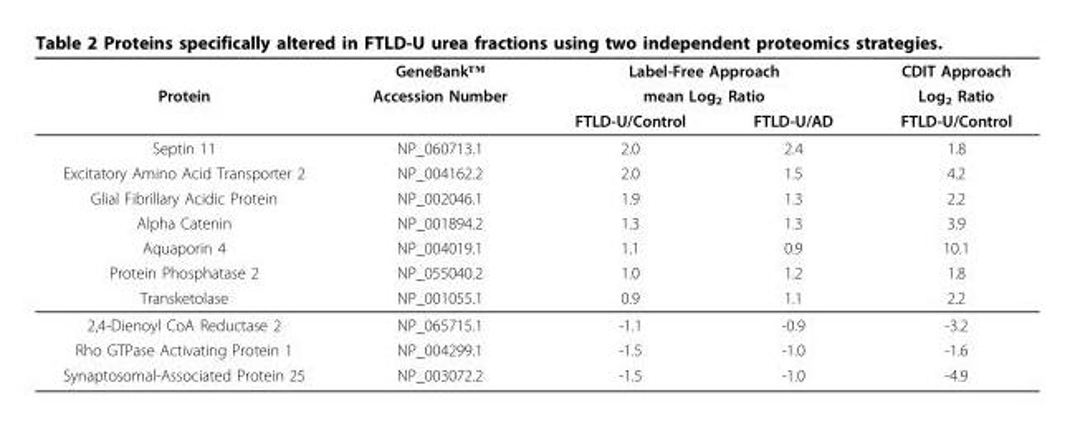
<table><thead><tr><td rowspan="3">Protein</td><td rowspan="3">GeneBank™ Accession Number</td><td rowspan="2" colspan="2">Label-Free Approach mean Log<sub>2</sub> Ratio</td><td rowspan="3">CDIT Approach Log<sub>2</sub> Ratio FTLD-U/Control</td></tr><tr></tr><tr><td>FTLD-U/Control</td><td>FTLD-U/AD</td></tr></thead><tbody><tr><td>Septin 11</td><td>NP_060713.1</td><td>2.0</td><td>2.4</td><td>1.8</td></tr><tr><td>Excitatory Amino Acid Transporter 2</td><td>NP_004162.2</td><td>2.0</td><td>1.5</td><td>4.2</td></tr><tr><td>Glial Fibrillary Acidic Protein</td><td>NP_002046.1</td><td>1.9</td><td>1.3</td><td>2.2</td></tr><tr><td>Alpha Catenin</td><td>NP_001894.2</td><td>1.3</td><td>1.3</td><td>3.9</td></tr><tr><td>Aquaporin 4</td><td>NP_004019.1</td><td>1.1</td><td>0.9</td><td>10.1</td></tr><tr><td>Protein Phosphatase 2</td><td>NP_055040.2</td><td>1.0</td><td>1.2</td><td>1.8</td></tr><tr><td>Transketolase</td><td>NP_001055.1</td><td>0.9</td><td>1.1</td><td>2.2</td></tr><tr><td>2,4-Dienoyl CoA Reductase 2</td><td>NP_065715.1</td><td>-1.1</td><td>-0.9</td><td>-3.2</td></tr><tr><td>Rho GTPase Activating Protein 1</td><td>NP_004299.1</td><td>-1.5</td><td>-1.0</td><td>-1.6</td></tr><tr><td>Synaptosomal-Associated Protein 25</td><td>NP_003072.2</td><td>-1.5</td><td>-1.0</td><td>-4.9</td></tr></tbody></table>